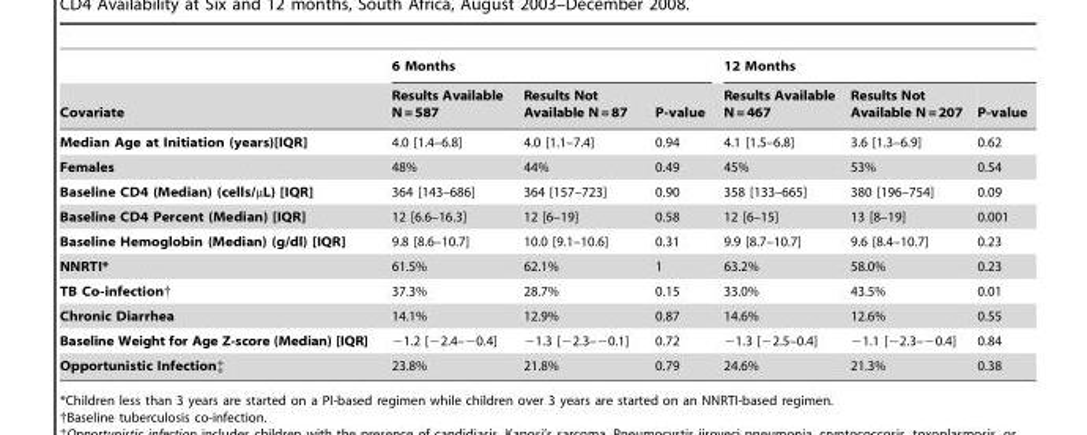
<table><thead><tr><td rowspan="2">Covariate</td><td colspan="3">6 Months</td><td colspan="3">12 Months</td></tr><tr><td>Results Available N = 587</td><td>Results Not Available N = 87</td><td>P-value</td><td>Results Available N = 467</td><td>Results Not Available N = 207</td><td>P-value</td></tr></thead><tbody><tr><td>Median Age at Initiation (years)[IQR]</td><td>4.0 [1.4–6.8]</td><td>4.0 [1.1–7.4]</td><td>0.94</td><td>4.1 [1.5–6.8]</td><td>3.6 [1.3–6.9]</td><td>0.62</td></tr><tr><td>Females</td><td>48%</td><td>44%</td><td>0.49</td><td>45%</td><td>53%</td><td>0.54</td></tr><tr><td>Baseline CD4 (Median) (cells/µL) [IQR]</td><td>364 [143–686]</td><td>364 [157–723]</td><td>0.90</td><td>358 [133–665]</td><td>380 [196–754]</td><td>0.09</td></tr><tr><td>Baseline CD4 Percent (Median) [IQR]</td><td>12 [6.6–16.3]</td><td>12 [6–19]</td><td>0.58</td><td>12 [6–15]</td><td>13 [8–19]</td><td>0.001</td></tr><tr><td>Baseline Hemoglobin (Median) (g/dl) [IQR]</td><td>9.8 [8.6–10.7]</td><td>10.0 [9.1–10.6]</td><td>0.31</td><td>9.9 [8.7–10.7]</td><td>9.6 [8.4–10.7]</td><td>0.23</td></tr><tr><td>NNRTI*</td><td>61.5%</td><td>62.1%</td><td>1</td><td>63.2%</td><td>58.0%</td><td>0.23</td></tr><tr><td>TB Co-infection†</td><td>37.3%</td><td>28.7%</td><td>0.15</td><td>33.0%</td><td>43.5%</td><td>0.01</td></tr><tr><td>Chronic Diarrhea</td><td>14.1%</td><td>12.9%</td><td>0.87</td><td>14.6%</td><td>12.6%</td><td>0.55</td></tr><tr><td>Baseline Weight for Age Z-score (Median) [IQR]</td><td>−1.2 [−2.4–−0.4]</td><td>−1.3 [−2.3–−0.1]</td><td>0.72</td><td>−1.3 [−2.5–0.4]</td><td>−1.1 [−2.3–−0.4]</td><td>0.84</td></tr><tr><td>Opportunistic Infection‡</td><td>23.8%</td><td>21.8%</td><td>0.79</td><td>24.6%</td><td>21.3%</td><td>0.38</td></tr></tbody></table>